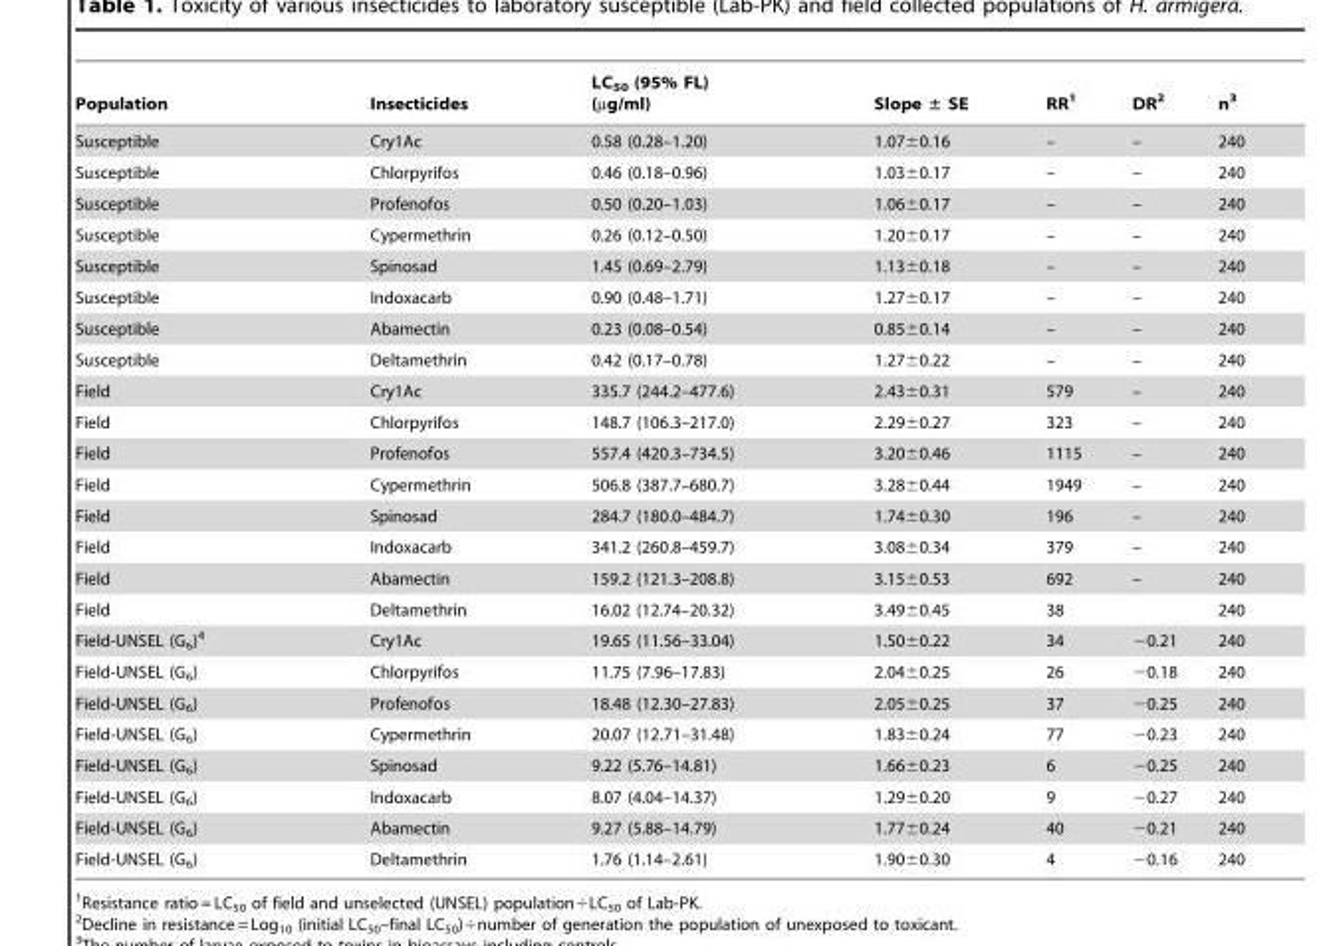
<table><thead><tr><td>Population</td><td>Insecticides</td><td>LC<sub>50</sub> (95% FL) (µg/ml)</td><td>Slope ± SE</td><td>RR<sup>1</sup></td><td>DR<sup>2</sup></td><td>n<sup>3</sup></td></tr></thead><tbody><tr><td>Susceptible</td><td>Cry1Ac</td><td>0.58 (0.28–1.20)</td><td>1.07±0.16</td><td>–</td><td>–</td><td>240</td></tr><tr><td>Susceptible</td><td>Chlorpyrifos</td><td>0.46 (0.18–0.96)</td><td>1.03±0.17</td><td>–</td><td>–</td><td>240</td></tr><tr><td>Susceptible</td><td>Profenofos</td><td>0.50 (0.20–1.03)</td><td>1.06±0.17</td><td>–</td><td>–</td><td>240</td></tr><tr><td>Susceptible</td><td>Cypermethrin</td><td>0.26 (0.12–0.50)</td><td>1.20±0.17</td><td>–</td><td>–</td><td>240</td></tr><tr><td>Susceptible</td><td>Spinosad</td><td>1.45 (0.69–2.79)</td><td>1.13±0.18</td><td>–</td><td>–</td><td>240</td></tr><tr><td>Susceptible</td><td>Indoxacarb</td><td>0.90 (0.48–1.71)</td><td>1.27±0.17</td><td>–</td><td>–</td><td>240</td></tr><tr><td>Susceptible</td><td>Abamectin</td><td>0.23 (0.08–0.54)</td><td>0.85±0.14</td><td>–</td><td>–</td><td>240</td></tr><tr><td>Susceptible</td><td>Deltamethrin</td><td>0.42 (0.17–0.78)</td><td>1.27±0.22</td><td>–</td><td>–</td><td>240</td></tr><tr><td>Field</td><td>Cry1Ac</td><td>335.7 (244.2–477.6)</td><td>2.43±0.31</td><td>579</td><td>–</td><td>240</td></tr><tr><td>Field</td><td>Chlorpyrifos</td><td>148.7 (106.3–217.0)</td><td>2.29±0.27</td><td>323</td><td>–</td><td>240</td></tr><tr><td>Field</td><td>Profenofos</td><td>557.4 (420.3–734.5)</td><td>3.20±0.46</td><td>1115</td><td>–</td><td>240</td></tr><tr><td>Field</td><td>Cypermethrin</td><td>506.8 (387.7–680.7)</td><td>3.28±0.44</td><td>1949</td><td>–</td><td>240</td></tr><tr><td>Field</td><td>Spinosad</td><td>284.7 (180.0–484.7)</td><td>1.74±0.30</td><td>196</td><td>–</td><td>240</td></tr><tr><td>Field</td><td>Indoxacarb</td><td>341.2 (260.8–459.7)</td><td>3.08±0.34</td><td>379</td><td>–</td><td>240</td></tr><tr><td>Field</td><td>Abamectin</td><td>159.2 (121.3–208.8)</td><td>3.15±0.53</td><td>692</td><td>–</td><td>240</td></tr><tr><td>Field</td><td>Deltamethrin</td><td>16.02 (12.74–20.32)</td><td>3.49±0.45</td><td>38</td><td></td><td>240</td></tr><tr><td>Field-UNSEL (G<sub>6</sub>)<sup>4</sup></td><td>Cry1Ac</td><td>19.65 (11.56–33.04)</td><td>1.50±0.22</td><td>34</td><td>−0.21</td><td>240</td></tr><tr><td>Field-UNSEL (G<sub>6</sub>)</td><td>Chlorpyrifos</td><td>11.75 (7.96–17.83)</td><td>2.04±0.25</td><td>26</td><td>−0.18</td><td>240</td></tr><tr><td>Field-UNSEL (G<sub>6</sub>)</td><td>Profenofos</td><td>18.48 (12.30–27.83)</td><td>2.05±0.25</td><td>37</td><td>−0.25</td><td>240</td></tr><tr><td>Field-UNSEL (G<sub>6</sub>)</td><td>Cypermethrin</td><td>20.07 (12.71–31.48)</td><td>1.83±0.24</td><td>77</td><td>−0.23</td><td>240</td></tr><tr><td>Field-UNSEL (G<sub>6</sub>)</td><td>Spinosad</td><td>9.22 (5.76–14.81)</td><td>1.66±0.23</td><td>6</td><td>−0.25</td><td>240</td></tr><tr><td>Field-UNSEL (G<sub>6</sub>)</td><td>Indoxacarb</td><td>8.07 (4.04–14.37)</td><td>1.29±0.20</td><td>9</td><td>−0.27</td><td>240</td></tr><tr><td>Field-UNSEL (G<sub>6</sub>)</td><td>Abamectin</td><td>9.27 (5.88–14.79)</td><td>1.77±0.24</td><td>40</td><td>−0.21</td><td>240</td></tr><tr><td>Field-UNSEL (G<sub>6</sub>)</td><td>Deltamethrin</td><td>1.76 (1.14–2.61)</td><td>1.90±0.30</td><td>4</td><td>−0.16</td><td>240</td></tr></tbody></table>